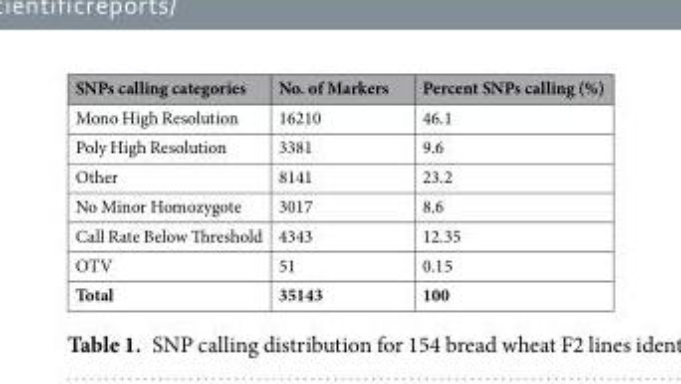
<table><thead><tr><td>SNPs calling categories</td><td>No. of Markers</td><td>Percent SNPs calling (%)</td></tr></thead><tbody><tr><td>Mono High Resolution</td><td>16210</td><td>46.1</td></tr><tr><td>Poly High Resolution</td><td>3381</td><td>9.6</td></tr><tr><td>Other</td><td>8141</td><td>23.2</td></tr><tr><td>No Minor Homozygote</td><td>3017</td><td>8.6</td></tr><tr><td>Call Rate Below Threshold</td><td>4343</td><td>12.35</td></tr><tr><td>OTV</td><td>51</td><td>0.15</td></tr><tr><td>Total</td><td>35143</td><td>100</td></tr></tbody></table>